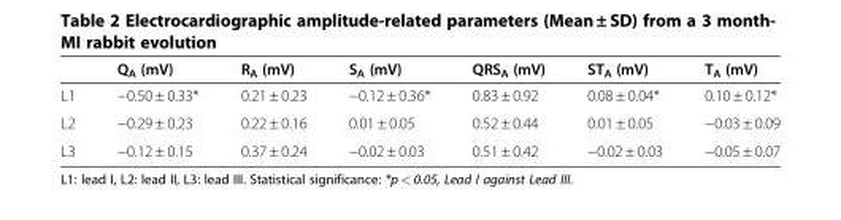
<table><thead><tr><td></td><td>Q<sub>A</sub> (mV)</td><td>R<sub>A</sub> (mV)</td><td>S<sub>A</sub> (mV)</td><td>QRS<sub>A</sub> (mV)</td><td>ST<sub>A</sub> (mV)</td><td>T<sub>A</sub> (mV)</td></tr></thead><tbody><tr><td>L1</td><td>−0.50 ± 0.33*</td><td>0.21 ± 0.23</td><td>−0.12 ± 0.36*</td><td>0.83 ± 0.92</td><td>0.08 ± 0.04*</td><td>0.10 ± 0.12*</td></tr><tr><td>L2</td><td>−0.29 ± 0.23</td><td>0.22 ± 0.16</td><td>0.01 ± 0.05</td><td>0.52 ± 0.44</td><td>0.01 ± 0.05</td><td>−0.03 ± 0.09</td></tr><tr><td>L3</td><td>−0.12 ± 0.15</td><td>0.37 ± 0.24</td><td>−0.02 ± 0.03</td><td>0.51 ± 0.42</td><td>−0.02 ± 0.03</td><td>−0.05 ± 0.07</td></tr></tbody></table>